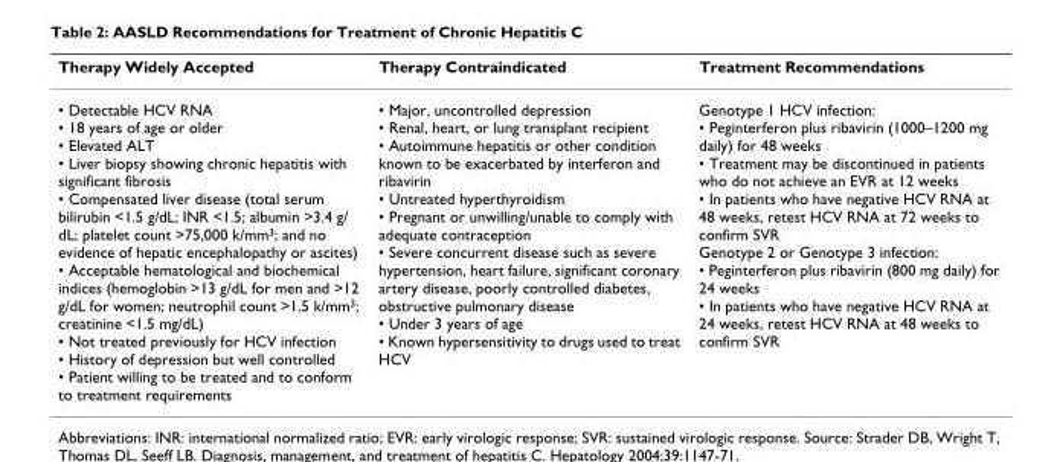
<table><thead><tr><td>Therapy Widely Accepted</td><td>Therapy Contraindicated</td><td>Treatment Recommendations</td></tr></thead><tbody><tr><td>• Detectable HCV RNA • 18 years of age or older • Elevated ALT • Liver biopsy showing chronic hepatitis with significant fibrosis • Compensated liver disease (total serum bilirubin &lt;1.5 g/dL; INR &lt;1.5; albumin &gt;3.4 g/ dL; platelet count &gt;75,000 k/mm<sup>3</sup>; and no evidence of hepatic encephalopathy or ascites) • Acceptable hematological and biochemical indices (hemoglobin &gt;13 g/dL for men and &gt;12 g/dL for women; neutrophil count &gt;1.5 k/mm<sup>3</sup>; creatinine &lt;1.5 mg/dL) • Not treated previously for HCV infection • History of depression but well controlled • Patient willing to be treated and to conform to treatment requirements</td><td>• Major, uncontrolled depression • Renal, heart, or lung transplant recipient • Autoimmune hepatitis or other condition known to be exacerbated by interferon and ribavirin • Untreated hyperthyroidism • Pregnant or unwilling/unable to comply with adequate contraception • Severe concurrent disease such as severe hypertension, heart failure, significant coronary artery disease, poorly controlled diabetes, obstructive pulmonary disease • Under 3 years of age • Known hypersensitivity to drugs used to treat HCV</td><td>Genotype 1 HCV infection: • Peginterferon plus ribavirin (1000–1200 mg daily) for 48 weeks • Treatment may be discontinued in patients who do not achieve an EVR at 12 weeks • In patients who have negative HCV RNA at 48 weeks, retest HCV RNA at 72 weeks to confirm SVR Genotype 2 or Genotype 3 infection: • Peginterferon plus ribavirin (800 mg daily) for 24 weeks • In patients who have negative HCV RNA at 24 weeks, retest HCV RNA at 48 weeks to confirm SVR</td></tr></tbody></table>